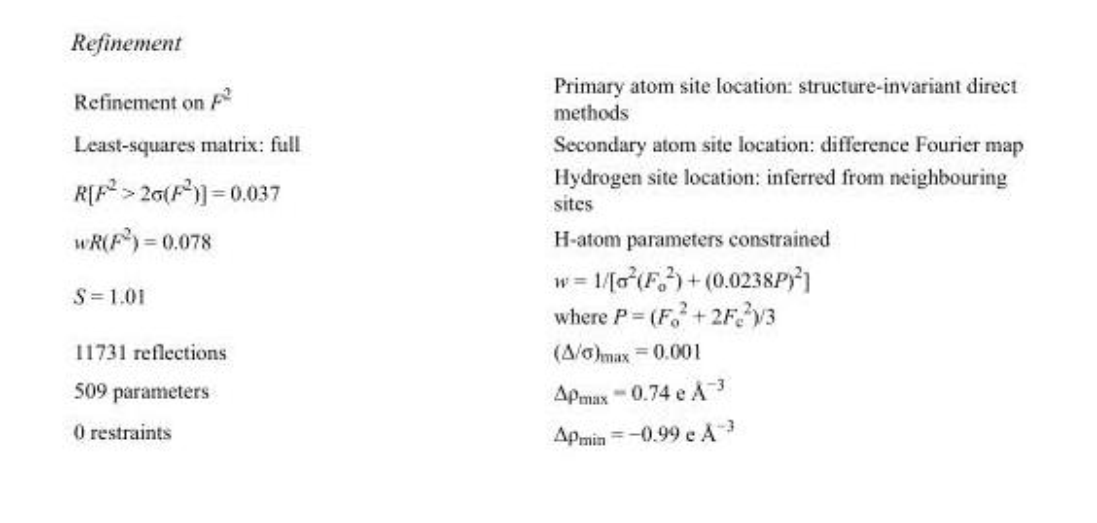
<table><tbody><tr><td>Refinement on F<sup>2</sup></td><td>Primary atom site location: structure-invariant direct methods</td></tr><tr><td>Least-squares matrix: full</td><td>Secondary atom site location: difference Fourier map</td></tr><tr><td>R[F<sup>2</sup> &gt; 2σ(F<sup>2</sup>)] = 0.037</td><td>Hydrogen site location: inferred from neighbouring sites</td></tr><tr><td>wR(F<sup>2</sup>) = 0.078</td><td>H-atom parameters constrained</td></tr><tr><td>S = 1.01</td><td>w = 1/[σ<sup>2</sup>(F<sub>o</sub> <sup>2</sup>) + (0.0238P)<sup>2</sup>] where P = (F<sub>o</sub> <sup>2</sup> + 2F<sub>c</sub> <sup>2</sup>)/3</td></tr><tr><td>11731 reflections</td><td>(Δ/σ)<sub>max</sub> = 0.001</td></tr><tr><td>509 parameters</td><td>Δρ<sub>max</sub> = 0.74 e Å<sup>−3</sup></td></tr><tr><td>0 restraints</td><td>Δρ<sub>min</sub> = −0.99 e Å<sup>−3</sup></td></tr></tbody></table>